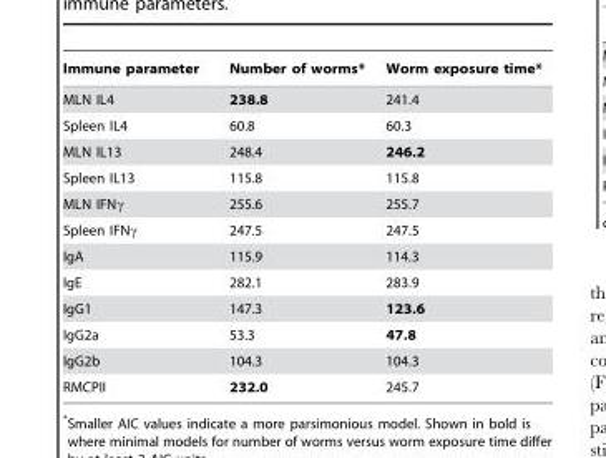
<table><thead><tr><td>Immune parameter</td><td>Number of worms*</td><td>Worm exposure time*</td></tr></thead><tbody><tr><td>MLN IL4</td><td>238.8</td><td>241.4</td></tr><tr><td>Spleen IL4</td><td>60.8</td><td>60.3</td></tr><tr><td>MLN IL13</td><td>248.4</td><td>246.2</td></tr><tr><td>Spleen IL13</td><td>115.8</td><td>115.8</td></tr><tr><td>MLN IFNγ</td><td>255.6</td><td>255.7</td></tr><tr><td>Spleen IFNγ</td><td>247.5</td><td>247.5</td></tr><tr><td>IgA</td><td>115.9</td><td>114.3</td></tr><tr><td>IgE</td><td>282.1</td><td>283.9</td></tr><tr><td>IgG1</td><td>147.3</td><td>123.6</td></tr><tr><td>IgG2a</td><td>53.3</td><td>47.8</td></tr><tr><td>IgG2b</td><td>104.3</td><td>104.3</td></tr><tr><td>RMCPII</td><td>232.0</td><td>245.7</td></tr></tbody></table>